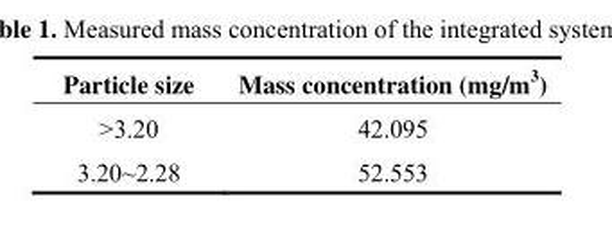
<table><thead><tr><td>Particle size</td><td>Mass concentration (mg/m<sup>3</sup>)</td></tr></thead><tbody><tr><td>&gt;3.20</td><td>42.095</td></tr><tr><td>3.20~2.28</td><td>52.553</td></tr></tbody></table>